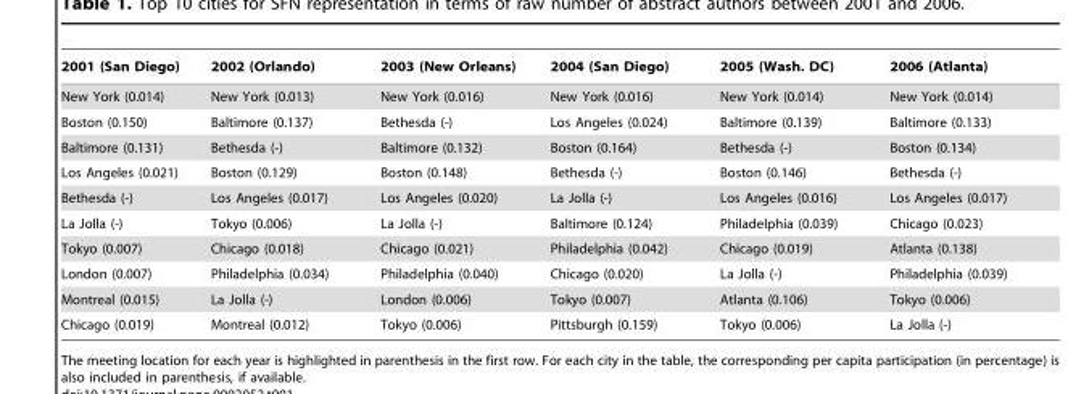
<table><thead><tr><td>2001 (San Diego)</td><td>2002 (Orlando)</td><td>2003 (New Orleans)</td><td>2004 (San Diego)</td><td>2005 (Wash. DC)</td><td>2006 (Atlanta)</td></tr></thead><tbody><tr><td>New York (0.014)</td><td>New York (0.013)</td><td>New York (0.016)</td><td>New York (0.016)</td><td>New York (0.014)</td><td>New York (0.014)</td></tr><tr><td>Boston (0.150)</td><td>Baltimore (0.137)</td><td>Bethesda (-)</td><td>Los Angeles (0.024)</td><td>Baltimore (0.139)</td><td>Baltimore (0.133)</td></tr><tr><td>Baltimore (0.131)</td><td>Bethesda (-)</td><td>Baltimore (0.132)</td><td>Boston (0.164)</td><td>Bethesda (-)</td><td>Boston (0.134)</td></tr><tr><td>Los Angeles (0.021)</td><td>Boston (0.129)</td><td>Boston (0.148)</td><td>Bethesda (-)</td><td>Boston (0.146)</td><td>Bethesda (-)</td></tr><tr><td>Bethesda (-)</td><td>Los Angeles (0.017)</td><td>Los Angeles (0.020)</td><td>La Jolla (-)</td><td>Los Angeles (0.016)</td><td>Los Angeles (0.017)</td></tr><tr><td>La Jolla (-)</td><td>Tokyo (0.006)</td><td>La Jolla (-)</td><td>Baltimore (0.124)</td><td>Philadelphia (0.039)</td><td>Chicago (0.023)</td></tr><tr><td>Tokyo (0.007)</td><td>Chicago (0.018)</td><td>Chicago (0.021)</td><td>Philadelphia (0.042)</td><td>Chicago (0.019)</td><td>Atlanta (0.138)</td></tr><tr><td>London (0.007)</td><td>Philadelphia (0.034)</td><td>Philadelphia (0.040)</td><td>Chicago (0.020)</td><td>La Jolla (-)</td><td>Philadelphia (0.039)</td></tr><tr><td>Montreal (0.015)</td><td>La Jolla (-)</td><td>London (0.006)</td><td>Tokyo (0.007)</td><td>Atlanta (0.106)</td><td>Tokyo (0.006)</td></tr><tr><td>Chicago (0.019)</td><td>Montreal (0.012)</td><td>Tokyo (0.006)</td><td>Pittsburgh (0.159)</td><td>Tokyo (0.006)</td><td>La Jolla (-)</td></tr></tbody></table>